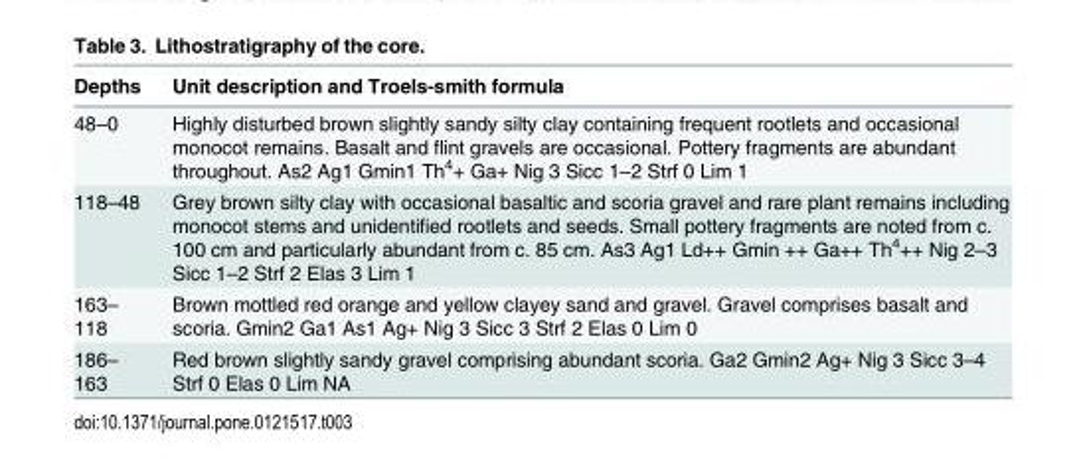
<table><thead><tr><td>Depths</td><td>Unit description and Troels-smith formula</td></tr></thead><tbody><tr><td>48–0</td><td>Highly disturbed brown slightly sandy silty clay containing frequent rootlets and occasional monocot remains. Basalt and flint gravels are occasional. Pottery fragments are abundant throughout. As2 Ag1 Gmin1 Th<sup>4</sup>+ Ga+ Nig 3 Sicc 1–2 Strf 0 Lim 1</td></tr><tr><td>118–48</td><td>Grey brown silty clay with occasional basaltic and scoria gravel and rare plant remains including monocot stems and unidentified rootlets and seeds. Small pottery fragments are noted from c. 100 cm and particularly abundant from c. 85 cm. As3 Ag1 Ld++ Gmin ++ Ga++ Th<sup>4</sup>++ Nig 2–3 Sicc 1–2 Strf 2 Elas 3 Lim 1</td></tr><tr><td>163– 118</td><td>Brown mottled red orange and yellow clayey sand and gravel. Gravel comprises basalt and scoria. Gmin2 Ga1 As1 Ag+ Nig 3 Sicc 3 Strf 2 Elas 0 Lim 0</td></tr><tr><td>186– 163</td><td>Red brown slightly sandy gravel comprising abundant scoria. Ga2 Gmin2 Ag+ Nig 3 Sicc 3–4 Strf 0 Elas 0 Lim NA</td></tr></tbody></table>